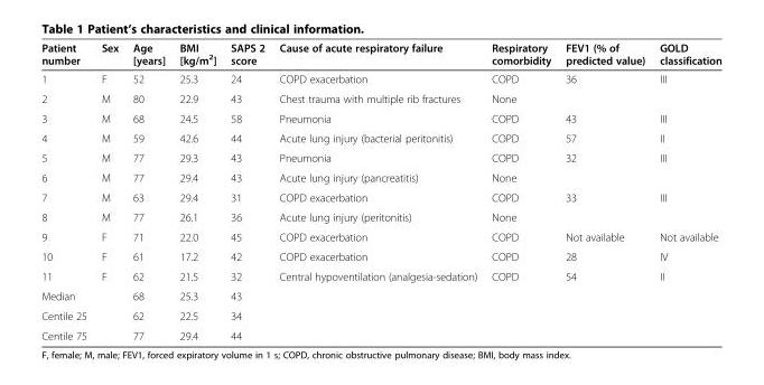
<table><thead><tr><td>Patient number</td><td>Sex</td><td>Age [years]</td><td>BMI [kg/m<sup>2</sup>]</td><td>SAPS 2 score</td><td>Cause of acute respiratory failure</td><td>Respiratory comorbidity</td><td>FEV1 (% of predicted value)</td><td>GOLD classification</td></tr></thead><tbody><tr><td>1</td><td>F</td><td>52</td><td>25.3</td><td>24</td><td>COPD exacerbation</td><td>COPD</td><td>36</td><td>III</td></tr><tr><td>2</td><td>M</td><td>80</td><td>22.9</td><td>43</td><td>Chest trauma with multiple rib fractures</td><td>None</td><td></td><td></td></tr><tr><td>3</td><td>M</td><td>68</td><td>24.5</td><td>58</td><td>Pneumonia</td><td>COPD</td><td>43</td><td>III</td></tr><tr><td>4</td><td>M</td><td>59</td><td>42.6</td><td>44</td><td>Acute lung injury (bacterial peritonitis)</td><td>COPD</td><td>57</td><td>II</td></tr><tr><td>5</td><td>M</td><td>77</td><td>29.3</td><td>43</td><td>Pneumonia</td><td>COPD</td><td>32</td><td>III</td></tr><tr><td>6</td><td>M</td><td>77</td><td>29.4</td><td>43</td><td>Acute lung injury (pancreatitis)</td><td>None</td><td></td><td></td></tr><tr><td>7</td><td>M</td><td>63</td><td>29.4</td><td>31</td><td>COPD exacerbation</td><td>COPD</td><td>33</td><td>III</td></tr><tr><td>8</td><td>M</td><td>77</td><td>26.1</td><td>36</td><td>Acute lung injury (peritonitis)</td><td>None</td><td></td><td></td></tr><tr><td>9</td><td>F</td><td>71</td><td>22.0</td><td>45</td><td>COPD exacerbation</td><td>COPD</td><td>Not available</td><td>Not available</td></tr><tr><td>10</td><td>F</td><td>61</td><td>17.2</td><td>42</td><td>COPD exacerbation</td><td>COPD</td><td>28</td><td>IV</td></tr><tr><td>11</td><td>F</td><td>62</td><td>21.5</td><td>32</td><td>Central hypoventilation (analgesia-sedation)</td><td>COPD</td><td>54</td><td>II</td></tr><tr><td>Median</td><td></td><td>68</td><td>25.3</td><td>43</td><td></td><td></td><td></td><td></td></tr><tr><td>Centile 25</td><td></td><td>62</td><td>22.5</td><td>34</td><td></td><td></td><td></td><td></td></tr><tr><td>Centile 75</td><td></td><td>77</td><td>29.4</td><td>44</td><td></td><td></td><td></td><td></td></tr></tbody></table>